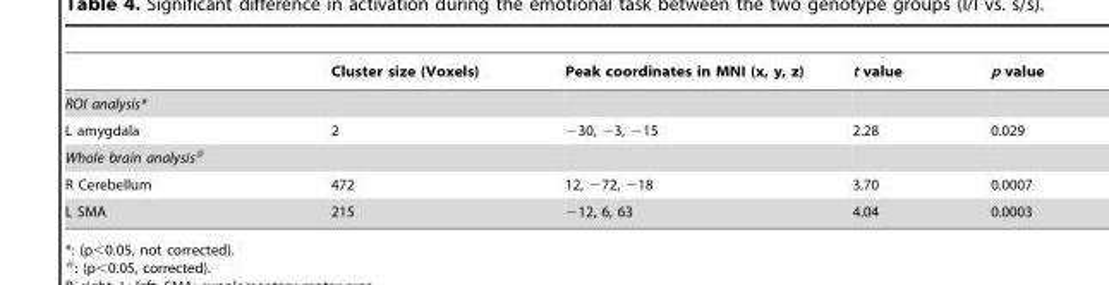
<table><thead><tr><td></td><td>Cluster size (Voxels)</td><td>Peak coordinates in MNI (x, y, z)</td><td>t value</td><td>p value</td></tr></thead><tbody><tr><td colspan="5">ROI analysis*</td></tr><tr><td>L amygdala</td><td>2</td><td>−30, −3, −15</td><td>2.28</td><td>0.029</td></tr><tr><td colspan="5">Whole brain analysis#</td></tr><tr><td>R Cerebellum</td><td>472</td><td>12, −72, −18</td><td>3.70</td><td>0.0007</td></tr><tr><td>L SMA</td><td>215</td><td>−12, 6, 63</td><td>4.04</td><td>0.0003</td></tr></tbody></table>